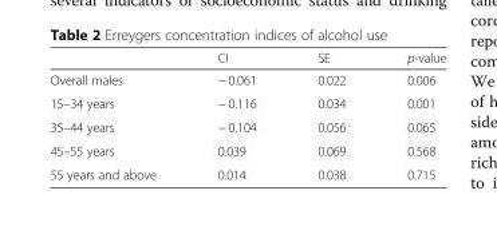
<table><thead><tr><td></td><td>CI</td><td>SE</td><td>p-value</td></tr></thead><tbody><tr><td>Overall males</td><td>− 0.061</td><td>0.022</td><td>0.006</td></tr><tr><td>15–34 years</td><td>− 0.116</td><td>0.034</td><td>0.001</td></tr><tr><td>35–44 years</td><td>− 0.104</td><td>0.056</td><td>0.065</td></tr><tr><td>45–55 years</td><td>0.039</td><td>0.069</td><td>0.568</td></tr><tr><td>55 years and above</td><td>0.014</td><td>0.038</td><td>0.715</td></tr></tbody></table>